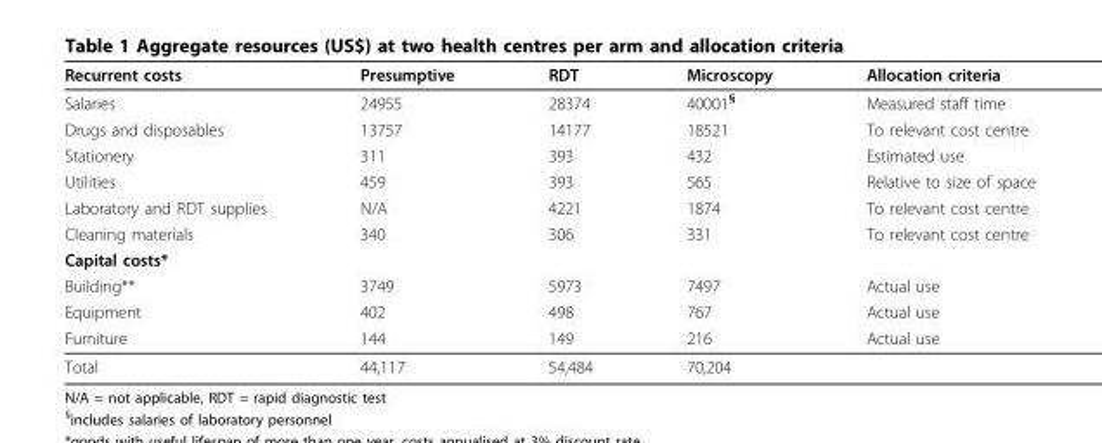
<table><thead><tr><td>Recurrent costs</td><td>Presumptive</td><td>RDT</td><td>Microscopy</td><td>Allocation criteria</td></tr></thead><tbody><tr><td>Salaries</td><td>24955</td><td>28374</td><td>40001<sup>§</sup></td><td>Measured staff time</td></tr><tr><td>Drugs and disposables</td><td>13757</td><td>14177</td><td>18521</td><td>To relevant cost centre</td></tr><tr><td>Stationery</td><td>311</td><td>393</td><td>432</td><td>Estimated use</td></tr><tr><td>Utilities</td><td>459</td><td>393</td><td>565</td><td>Relative to size of space</td></tr><tr><td>Laboratory and RDT supplies</td><td>N/A</td><td>4221</td><td>1874</td><td>To relevant cost centre</td></tr><tr><td>Cleaning materials</td><td>340</td><td>306</td><td>331</td><td>To relevant cost centre</td></tr><tr><td colspan="5">Capital costs*</td></tr><tr><td>Building**</td><td>3749</td><td>5973</td><td>7497</td><td>Actual use</td></tr><tr><td>Equipment</td><td>402</td><td>498</td><td>767</td><td>Actual use</td></tr><tr><td>Furniture</td><td>144</td><td>149</td><td>216</td><td>Actual use</td></tr><tr><td>Total</td><td>44,117</td><td>54,484</td><td>70,204</td><td></td></tr></tbody></table>